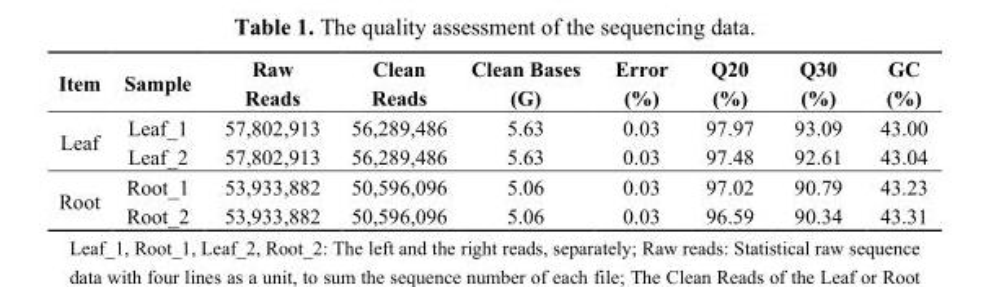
<table><thead><tr><td>Item</td><td>Sample</td><td>Raw Reads</td><td>Clean Reads</td><td>Clean Bases (G)</td><td>Error (%)</td><td>Q20 (%)</td><td>Q30 (%)</td><td>GC (%)</td></tr></thead><tbody><tr><td rowspan="2">Leaf</td><td>Leaf_1</td><td>57,802,913</td><td>56,289,486</td><td>5.63</td><td>0.03</td><td>97.97</td><td>93.09</td><td>43.00</td></tr><tr><td>Leaf_2</td><td>57,802,913</td><td>56,289,486</td><td>5.63</td><td>0.03</td><td>97.48</td><td>92.61</td><td>43.04</td></tr><tr><td rowspan="2">Root</td><td>Root_1</td><td>53,933,882</td><td>50,596,096</td><td>5.06</td><td>0.03</td><td>97.02</td><td>90.79</td><td>43.23</td></tr><tr><td>Root_2</td><td>53,933,882</td><td>50,596,096</td><td>5.06</td><td>0.03</td><td>96.59</td><td>90.34</td><td>43.31</td></tr></tbody></table>